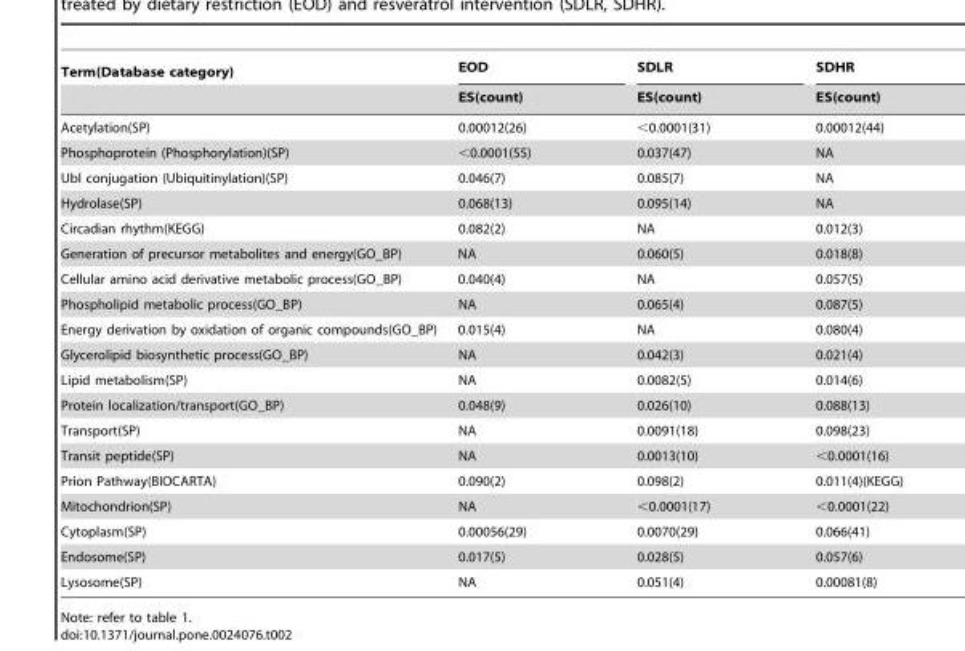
<table><thead><tr><td rowspan="2">Term(Database category)</td><td rowspan="2">EOD ES(count)</td><td rowspan="2">SDLR ES(count)</td><td rowspan="2">SDHR ES(count)</td></tr><tr></tr></thead><tbody><tr><td>Acetylation(SP)</td><td>0.00012(26)</td><td>&lt;0.0001(31)</td><td>0.00012(44)</td></tr><tr><td>Phosphoprotein (Phosphorylation)(SP)</td><td>&lt;0.0001(55)</td><td>0.037(47)</td><td>NA</td></tr><tr><td>Ubl conjugation (Ubiquitinylation)(SP)</td><td>0.046(7)</td><td>0.085(7)</td><td>NA</td></tr><tr><td>Hydrolase(SP)</td><td>0.068(13)</td><td>0.095(14)</td><td>NA</td></tr><tr><td>Circadian rhythm(KEGG)</td><td>0.082(2)</td><td>NA</td><td>0.012(3)</td></tr><tr><td>Generation of precursor metabolites and energy(GO_BP)</td><td>NA</td><td>0.060(5)</td><td>0.018(8)</td></tr><tr><td>Cellular amino acid derivative metabolic process(GO_BP)</td><td>0.040(4)</td><td>NA</td><td>0.057(5)</td></tr><tr><td>Phospholipid metabolic process(GO_BP)</td><td>NA</td><td>0.065(4)</td><td>0.087(5)</td></tr><tr><td>Energy derivation by oxidation of organic compounds(GO_BP)</td><td>0.015(4)</td><td>NA</td><td>0.080(4)</td></tr><tr><td>Glycerolipid biosynthetic process(GO_BP)</td><td>NA</td><td>0.042(3)</td><td>0.021(4)</td></tr><tr><td>Lipid metabolism(SP)</td><td>NA</td><td>0.0082(5)</td><td>0.014(6)</td></tr><tr><td>Protein localization/transport(GO_BP)</td><td>0.048(9)</td><td>0.026(10)</td><td>0.088(13)</td></tr><tr><td>Transport(SP)</td><td>NA</td><td>0.0091(18)</td><td>0.098(23)</td></tr><tr><td>Transit peptide(SP)</td><td>NA</td><td>0.0013(10)</td><td>&lt;0.0001(16)</td></tr><tr><td>Prion Pathway(BIOCARTA)</td><td>0.090(2)</td><td>0.098(2)</td><td>0.011(4)(KEGG)</td></tr><tr><td>Mitochondrion(SP)</td><td>NA</td><td>&lt;0.0001(17)</td><td>&lt;0.0001(22)</td></tr><tr><td>Cytoplasm(SP)</td><td>0.00056(29)</td><td>0.0070(29)</td><td>0.066(41)</td></tr><tr><td>Endosome(SP)</td><td>0.017(5)</td><td>0.028(5)</td><td>0.057(6)</td></tr><tr><td>Lysosome(SP)</td><td>NA</td><td>0.051(4)</td><td>0.00081(8)</td></tr></tbody></table>